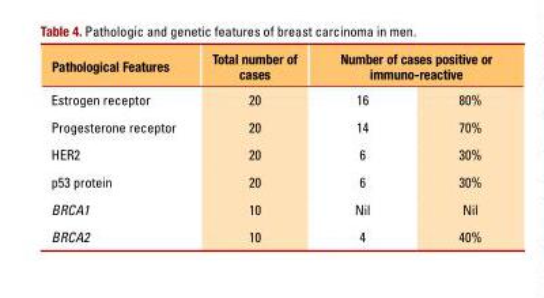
<table><thead><tr><td rowspan="2">Pathological Features estrogen receptor</td><td rowspan="2">Total number of cases 20</td><td colspan="2">Number of cases positive or immuno-reactive</td></tr><tr><td>16</td><td>80%</td></tr></thead><tbody><tr><td>Progesterone receptor</td><td>20</td><td>14</td><td>70%</td></tr><tr><td>Her2</td><td>20</td><td>6</td><td>30%</td></tr><tr><td>p53 protein</td><td>20</td><td>6</td><td>30%</td></tr><tr><td>BRCA1</td><td>10</td><td>nil</td><td>nil</td></tr><tr><td>BRCA2</td><td>10</td><td>4</td><td>40%</td></tr></tbody></table>